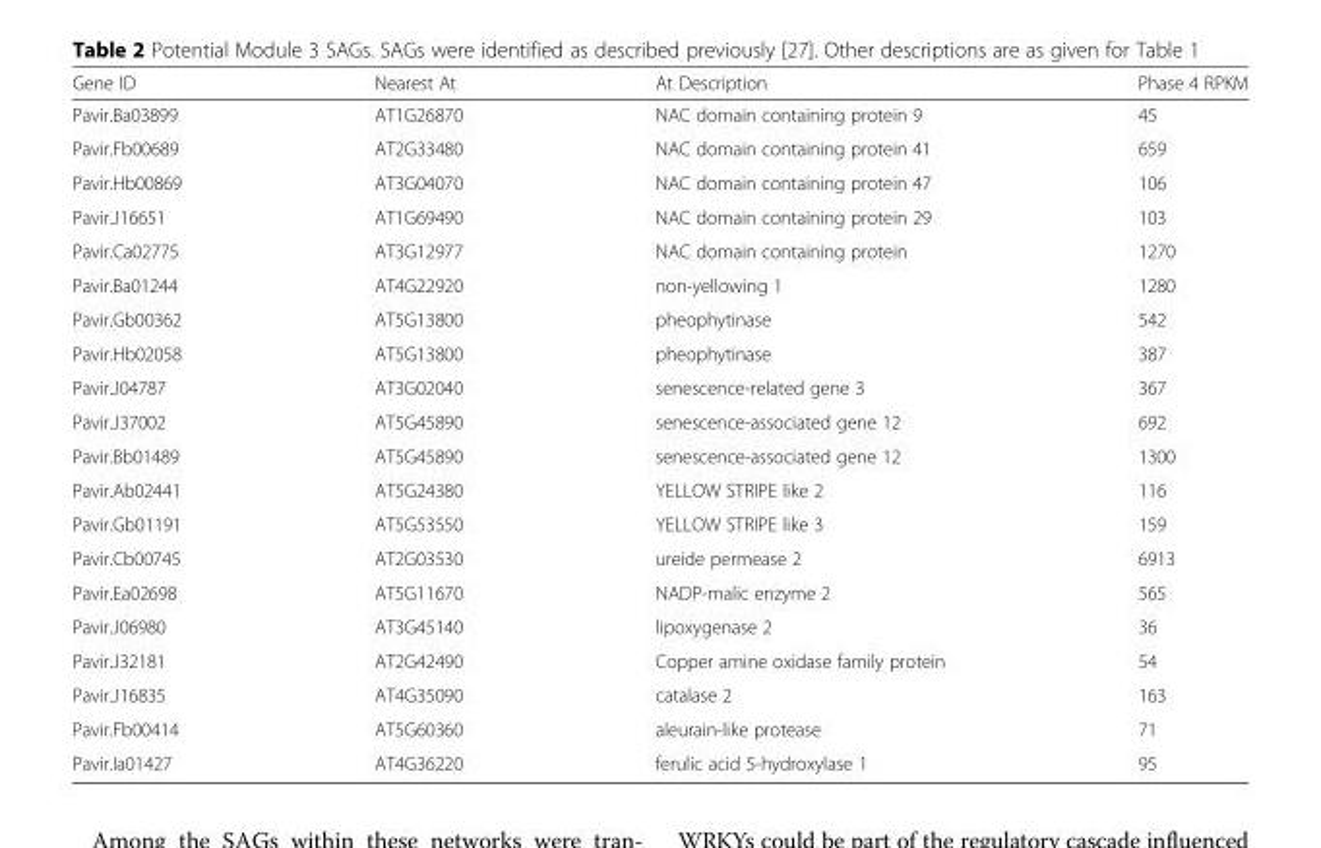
<table><thead><tr><td>Gene ID</td><td>Nearest At</td><td>At Description</td><td>Phase 4 RPKM</td></tr></thead><tbody><tr><td>Pavir.Ba03899</td><td>AT1G26870</td><td>NAC domain containing protein 9</td><td>45</td></tr><tr><td>Pavir.Fb00689</td><td>AT2G33480</td><td>NAC domain containing protein 41</td><td>659</td></tr><tr><td>Pavir.Hb00869</td><td>AT3G04070</td><td>NAC domain containing protein 47</td><td>106</td></tr><tr><td>Pavir.J16651</td><td>AT1G69490</td><td>NAC domain containing protein 29</td><td>103</td></tr><tr><td>Pavir.Ca02775</td><td>AT3G12977</td><td>NAC domain containing protein</td><td>1270</td></tr><tr><td>Pavir.Ba01244</td><td>AT4G22920</td><td>non-yellowing 1</td><td>1280</td></tr><tr><td>Pavir.Gb00362</td><td>AT5G13800</td><td>pheophytinase</td><td>542</td></tr><tr><td>Pavir.Hb02058</td><td>AT5G13800</td><td>pheophytinase</td><td>387</td></tr><tr><td>Pavir.J04787</td><td>AT3G02040</td><td>senescence-related gene 3</td><td>367</td></tr><tr><td>Pavir.J37002</td><td>AT5G45890</td><td>senescence-associated gene 12</td><td>692</td></tr><tr><td>Pavir.Bb01489</td><td>AT5G45890</td><td>senescence-associated gene 12</td><td>1300</td></tr><tr><td>Pavir.Ab02441</td><td>AT5G24380</td><td>YELLOW STRIPE like 2</td><td>116</td></tr><tr><td>Pavir.Gb01191</td><td>AT5G53550</td><td>YELLOW STRIPE like 3</td><td>159</td></tr><tr><td>Pavir.Cb00745</td><td>AT2G03530</td><td>ureide permease 2</td><td>6913</td></tr><tr><td>Pavir.Ea02698</td><td>AT5G11670</td><td>NADP-malic enzyme 2</td><td>565</td></tr><tr><td>Pavir.J06980</td><td>AT3G45140</td><td>lipoxygenase 2</td><td>36</td></tr><tr><td>Pavir.J32181</td><td>AT2G42490</td><td>Copper amine oxidase family protein</td><td>54</td></tr><tr><td>Pavir.J16835</td><td>AT4G35090</td><td>catalase 2</td><td>163</td></tr><tr><td>Pavir.Fb00414</td><td>AT5G60360</td><td>aleurain-like protease</td><td>71</td></tr><tr><td>Pavir.Ia01427</td><td>AT4G36220</td><td>ferulic acid 5-hydroxylase 1</td><td>95</td></tr></tbody></table>